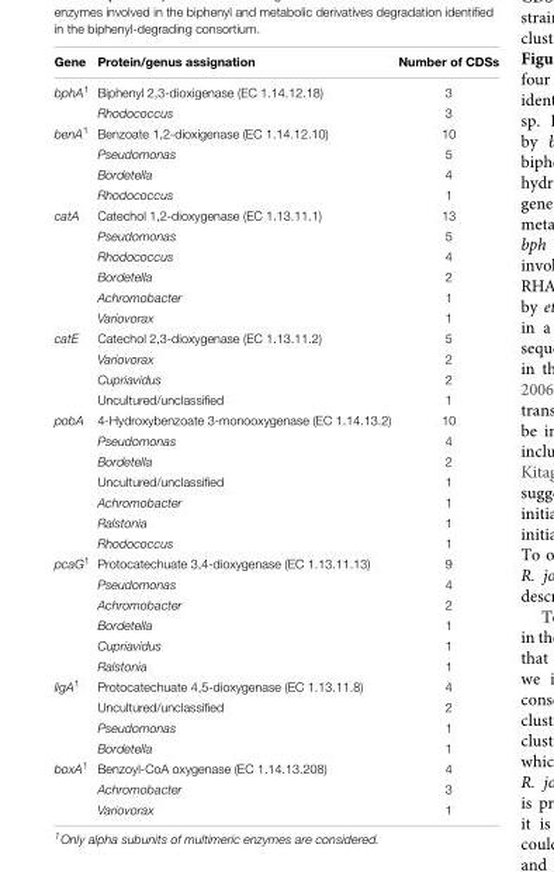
<table><thead><tr><td>Gene</td><td>Protein/genus assignation</td><td>Number of CDSs</td></tr></thead><tbody><tr><td rowspan="2">bphA<sup>1</sup></td><td>Biphenyl 2,3-dioxigenase (EC 1.14.12.18)</td><td>3</td></tr><tr><td>Rhodococcus</td><td>3</td></tr><tr><td rowspan="4">benA<sup>1</sup></td><td>Benzoate 1,2-dioxigenase (EC 1.14.12.10)</td><td>10</td></tr><tr><td>Pseudomonas</td><td>5</td></tr><tr><td>Bordetella</td><td>4</td></tr><tr><td>Rhodococcus</td><td>1</td></tr><tr><td rowspan="6">catA</td><td>Catechol 1,2-dioxygenase (EC 1.13.11.1)</td><td>13</td></tr><tr><td>Pseudomonas</td><td>5</td></tr><tr><td>Rhodococcus</td><td>4</td></tr><tr><td>Bordetella</td><td>2</td></tr><tr><td>Achromobacter</td><td>1</td></tr><tr><td>Variovorax</td><td>1</td></tr><tr><td rowspan="4">catE</td><td>Catechol 2,3-dioxygenase (EC 1.13.11.2)</td><td>5</td></tr><tr><td>Variovorax</td><td>2</td></tr><tr><td>Cupriavidus</td><td>2</td></tr><tr><td>Uncultured/unclassified</td><td>1</td></tr><tr><td rowspan="7">pobA</td><td>4-Hydroxybenzoate 3-monooxygenase (EC 1.14.13.2)</td><td>10</td></tr><tr><td>Pseudomonas</td><td>4</td></tr><tr><td>Bordetella</td><td>2</td></tr><tr><td>Uncultured/unclassified</td><td>1</td></tr><tr><td>Achromobacter</td><td>1</td></tr><tr><td>Ralstonia</td><td>1</td></tr><tr><td>Rhodococcus</td><td>1</td></tr><tr><td rowspan="6">pcaG<sup>1</sup></td><td>Protocatechuate 3,4-dioxygenase (EC 1.13.11.13)</td><td>9</td></tr><tr><td>Pseudomonas</td><td>4</td></tr><tr><td>Achromobacter</td><td>2</td></tr><tr><td>Bordetella</td><td>1</td></tr><tr><td>Cupriavidus</td><td>1</td></tr><tr><td>Ralstonia</td><td>1</td></tr><tr><td rowspan="4">ligA<sup>1</sup></td><td>Protocatechuate 4,5-dioxygenase (EC 1.13.11.8)</td><td>4</td></tr><tr><td>Uncultured/unclassified</td><td>2</td></tr><tr><td>Pseudomonas</td><td>1</td></tr><tr><td>Bordetella</td><td>1</td></tr><tr><td rowspan="3">boxA<sup>1</sup></td><td>Benzoyl-CoA oxygenase (EC 1.14.13.208)</td><td>4</td></tr><tr><td>Achromobacter</td><td>3</td></tr><tr><td>Variovorax</td><td>1</td></tr></tbody></table>